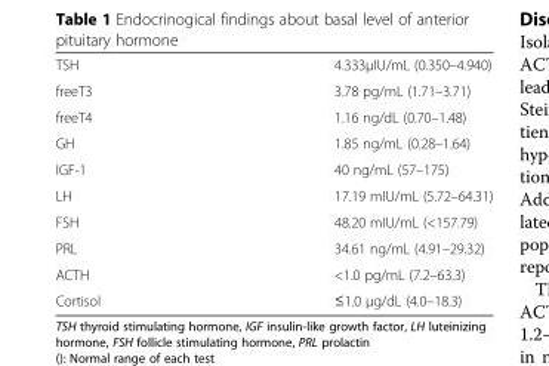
<table><tbody><tr><td>TSH</td><td>4.333μIU/mL (0.350–4.940)</td></tr><tr><td>freeT3</td><td>3.78 pg/mL (1.71–3.71)</td></tr><tr><td>freeT4</td><td>1.16 ng/dL (0.70–1.48)</td></tr><tr><td>GH</td><td>1.85 ng/mL (0.28–1.64)</td></tr><tr><td>IGF-1</td><td>40 ng/mL (57–175)</td></tr><tr><td>LH</td><td>17.19 mIU/mL (5.72–64.31)</td></tr><tr><td>FSH</td><td>48.20 mIU/mL (&lt;157.79)</td></tr><tr><td>PRL</td><td>34.61 ng/mL (4.91–29.32)</td></tr><tr><td>ACTH</td><td>&lt;1.0 pg/mL (7.2–63.3)</td></tr><tr><td>Cortisol</td><td>≤1.0 μg/dL (4.0–18.3)</td></tr></tbody></table>